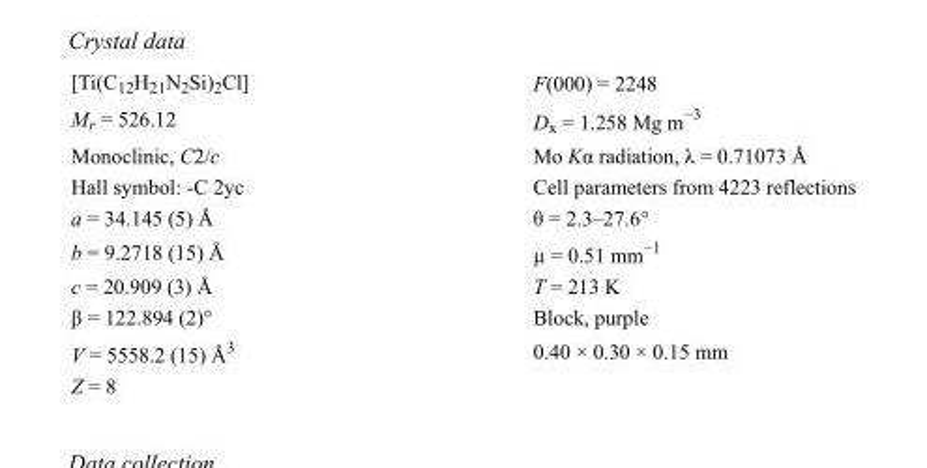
<table><tbody><tr><td>[Ti(C<sub>12</sub>H<sub>21</sub>N<sub>2</sub>Si)<sub>2</sub>Cl]</td><td>F(000) = 2248</td></tr><tr><td>M<sub>r</sub> = 526.12</td><td>D<sub>x</sub> = 1.258 Mg m<sup>−3</sup></td></tr><tr><td>Monoclinic, C2/c</td><td>Mo Kα radiation, λ = 0.71073 Å</td></tr><tr><td>Hall symbol: -C 2yc</td><td>Cell parameters from 4223 reflections</td></tr><tr><td>a = 34.145 (5) Å</td><td>θ = 2.3–27.6°</td></tr><tr><td>b = 9.2718 (15) Å</td><td>µ = 0.51 mm<sup>−1</sup></td></tr><tr><td>c = 20.909 (3) Å</td><td>T = 213 K</td></tr><tr><td>β = 122.894 (2)°</td><td>Block, purple</td></tr><tr><td>V = 5558.2 (15) Å<sup>3</sup></td><td>0.40 × 0.30 × 0.15 mm</td></tr><tr><td>Z = 8</td><td></td></tr></tbody></table>